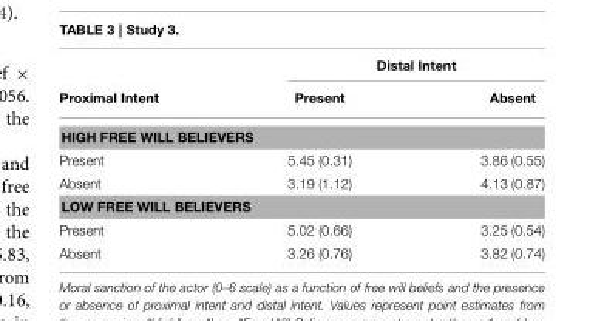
<table><thead><tr><td rowspan="2">Proximal Intent</td><td colspan="2">Distal Intent</td></tr><tr><td>Present</td><td>Absent</td></tr></thead><tbody><tr><td colspan="3">HIGH FREE WILL BELIEVERS</td></tr><tr><td>Present</td><td>5.45 (0.31)</td><td>3.86 (0.55)</td></tr><tr><td>Absent</td><td>3.19 (1.12)</td><td>4.13 (0.87)</td></tr><tr><td colspan="3">LOW FREE WILL BELIEVERS</td></tr><tr><td>Present</td><td>5.02 (0.66)</td><td>3.25 (0.54)</td></tr><tr><td>Absent</td><td>3.26 (0.76)</td><td>3.82 (0.74)</td></tr></tbody></table>